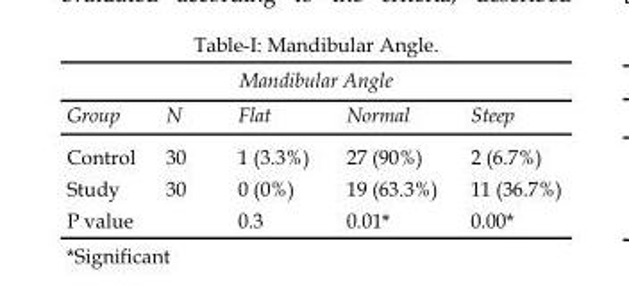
<table><thead><tr><td colspan="5">Mandibular Angle</td></tr><tr><td>Group</td><td>N</td><td>Flat</td><td>Normal</td><td>Steep</td></tr></thead><tbody><tr><td>Control</td><td>30</td><td>1 (3.3%)</td><td>27 (90%)</td><td>2 (6.7%)</td></tr><tr><td>Study</td><td>30</td><td>0 (0%)</td><td>19 (63.3%)</td><td>11 (36.7%)</td></tr><tr><td>P value</td><td></td><td>0.3</td><td>0.01*</td><td>0.00*</td></tr></tbody></table>